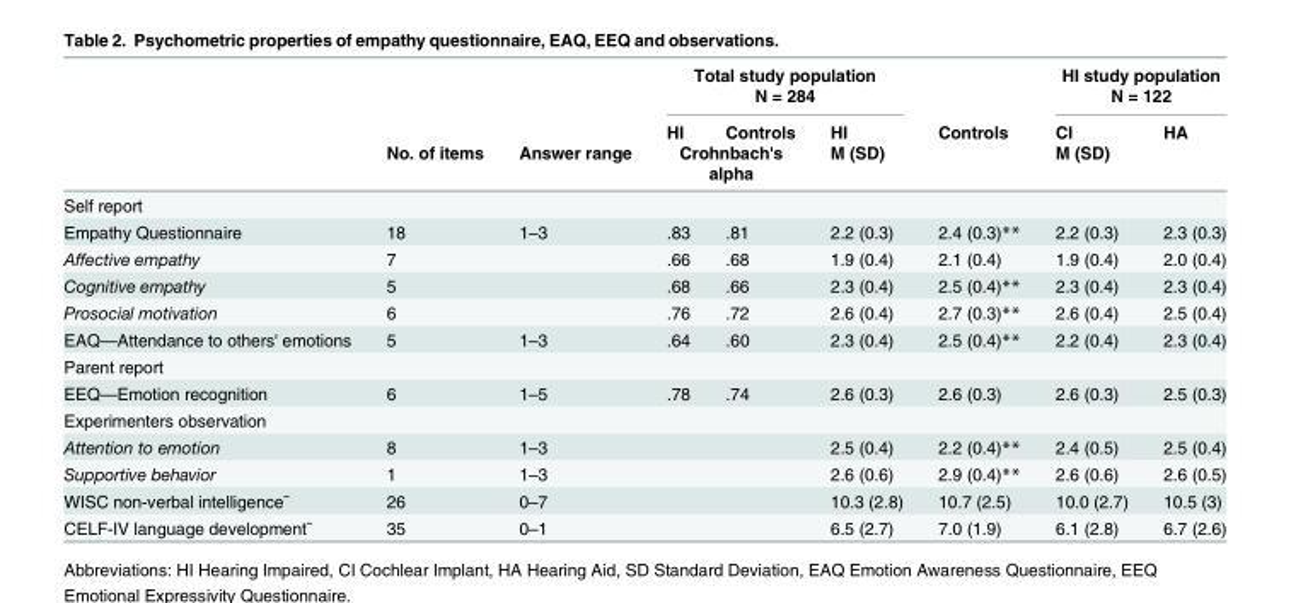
<table><thead><tr><td rowspan="3"></td><td rowspan="3">No. of items</td><td rowspan="3">Answer range</td><td colspan="3">Total study population N = 284</td><td rowspan="3">Controls</td><td colspan="2">HI study population N = 122</td></tr><tr><td>HI</td><td>Controls</td><td rowspan="2">HI M (SD)</td><td rowspan="2">CI M (SD)</td><td rowspan="2">HA</td></tr><tr><td colspan="2">Crohnbach&#x27;s alpha</td></tr></thead><tbody><tr><td colspan="9">Self report</td></tr><tr><td>Empathy Questionnaire</td><td>18</td><td>1–3</td><td>.83</td><td>.81</td><td>2.2 (0.3)</td><td>2.4 (0.3)**</td><td>2.2 (0.3)</td><td>2.3 (0.3)</td></tr><tr><td>Affective empathy</td><td>7</td><td></td><td>.66</td><td>.68</td><td>1.9 (0.4)</td><td>2.1 (0.4)</td><td>1.9 (0.4)</td><td>2.0 (0.4)</td></tr><tr><td>Cognitive empathy</td><td>5</td><td></td><td>.68</td><td>.66</td><td>2.3 (0.4)</td><td>2.5 (0.4)**</td><td>2.3 (0.4)</td><td>2.3 (0.4)</td></tr><tr><td>Prosocial motivation</td><td>6</td><td></td><td>.76</td><td>.72</td><td>2.6 (0.4)</td><td>2.7 (0.3)**</td><td>2.6 (0.4)</td><td>2.5 (0.4)</td></tr><tr><td>EAQ—Attendance to others&#x27; emotions</td><td>5</td><td>1–3</td><td>.64</td><td>.60</td><td>2.3 (0.4)</td><td>2.5 (0.4)**</td><td>2.2 (0.4)</td><td>2.3 (0.4)</td></tr><tr><td colspan="9">Parent report</td></tr><tr><td>EEQ—Emotion recognition</td><td>6</td><td>1–5</td><td>.78</td><td>.74</td><td>2.6 (0.3)</td><td>2.6 (0.3)</td><td>2.6 (0.3)</td><td>2.5 (0.3)</td></tr><tr><td colspan="9">Experimenters observation</td></tr><tr><td>Attention to emotion</td><td>8</td><td>1–3</td><td></td><td></td><td>2.5 (0.4)</td><td>2.2 (0.4)**</td><td>2.4 (0.5)</td><td>2.5 (0.4)</td></tr><tr><td>Supportive behavior</td><td>1</td><td>1–3</td><td></td><td></td><td>2.6 (0.6)</td><td>2.9 (0.4)**</td><td>2.6 (0.6)</td><td>2.6 (0.5)</td></tr><tr><td>WISC non-verbal intelligence˜</td><td>26</td><td>0–7</td><td></td><td></td><td>10.3 (2.8)</td><td>10.7 (2.5)</td><td>10.0 (2.7)</td><td>10.5 (3)</td></tr><tr><td>CELF-IV language development˜</td><td>35</td><td>0–1</td><td></td><td></td><td>6.5 (2.7)</td><td>7.0 (1.9)</td><td>6.1 (2.8)</td><td>6.7 (2.6)</td></tr></tbody></table>